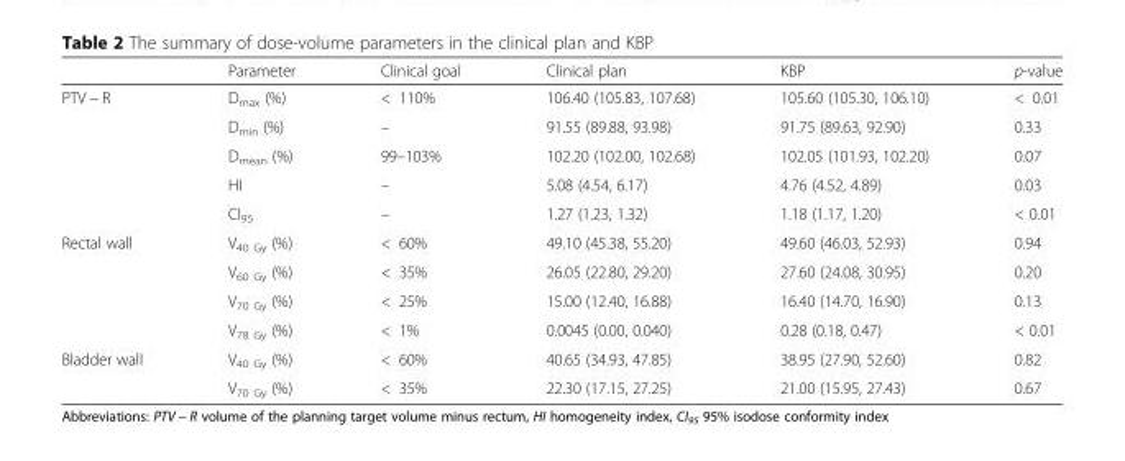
<table><thead><tr><td></td><td>Parameter</td><td>Clinical goal</td><td>Clinical plan</td><td>KBP</td><td>p-value</td></tr></thead><tbody><tr><td rowspan="5">PTV − R</td><td>D<sub>max</sub> (%)</td><td>&lt; 110%</td><td>106.40 (105.83, 107.68)</td><td>105.60 (105.30, 106.10)</td><td>&lt; 0.01</td></tr><tr><td>D<sub>min</sub> (%)</td><td>–</td><td>91.55 (89.88, 93.98)</td><td>91.75 (89.63, 92.90)</td><td>0.33</td></tr><tr><td>D<sub>mean</sub> (%)</td><td>99–103%</td><td>102.20 (102.00, 102.68)</td><td>102.05 (101.93, 102.20)</td><td>0.07</td></tr><tr><td>HI</td><td>–</td><td>5.08 (4.54, 6.17)</td><td>4.76 (4.52, 4.89)</td><td>0.03</td></tr><tr><td>CI<sub>95</sub></td><td>–</td><td>1.27 (1.23, 1.32)</td><td>1.18 (1.17, 1.20)</td><td>&lt; 0.01</td></tr><tr><td rowspan="4">Rectal wall</td><td>V<sub>40 Gy</sub> (%)</td><td>&lt; 60%</td><td>49.10 (45.38, 55.20)</td><td>49.60 (46.03, 52.93)</td><td>0.94</td></tr><tr><td>V<sub>60 Gy</sub> (%)</td><td>&lt; 35%</td><td>26.05 (22.80, 29.20)</td><td>27.60 (24.08, 30.95)</td><td>0.20</td></tr><tr><td>V<sub>70 Gy</sub> (%)</td><td>&lt; 25%</td><td>15.00 (12.40, 16.88)</td><td>16.40 (14.70, 16.90)</td><td>0.13</td></tr><tr><td>V<sub>78 Gy</sub> (%)</td><td>&lt; 1%</td><td>0.0045 (0.00, 0.040)</td><td>0.28 (0.18, 0.47)</td><td>&lt; 0.01</td></tr><tr><td rowspan="2">Bladder wall</td><td>V<sub>40 Gy</sub> (%)</td><td>&lt; 60%</td><td>40.65 (34.93, 47.85)</td><td>38.95 (27.90, 52.60)</td><td>0.82</td></tr><tr><td>V<sub>70 Gy</sub> (%)</td><td>&lt; 35%</td><td>22.30 (17.15, 27.25)</td><td>21.00 (15.95, 27.43)</td><td>0.67</td></tr></tbody></table>